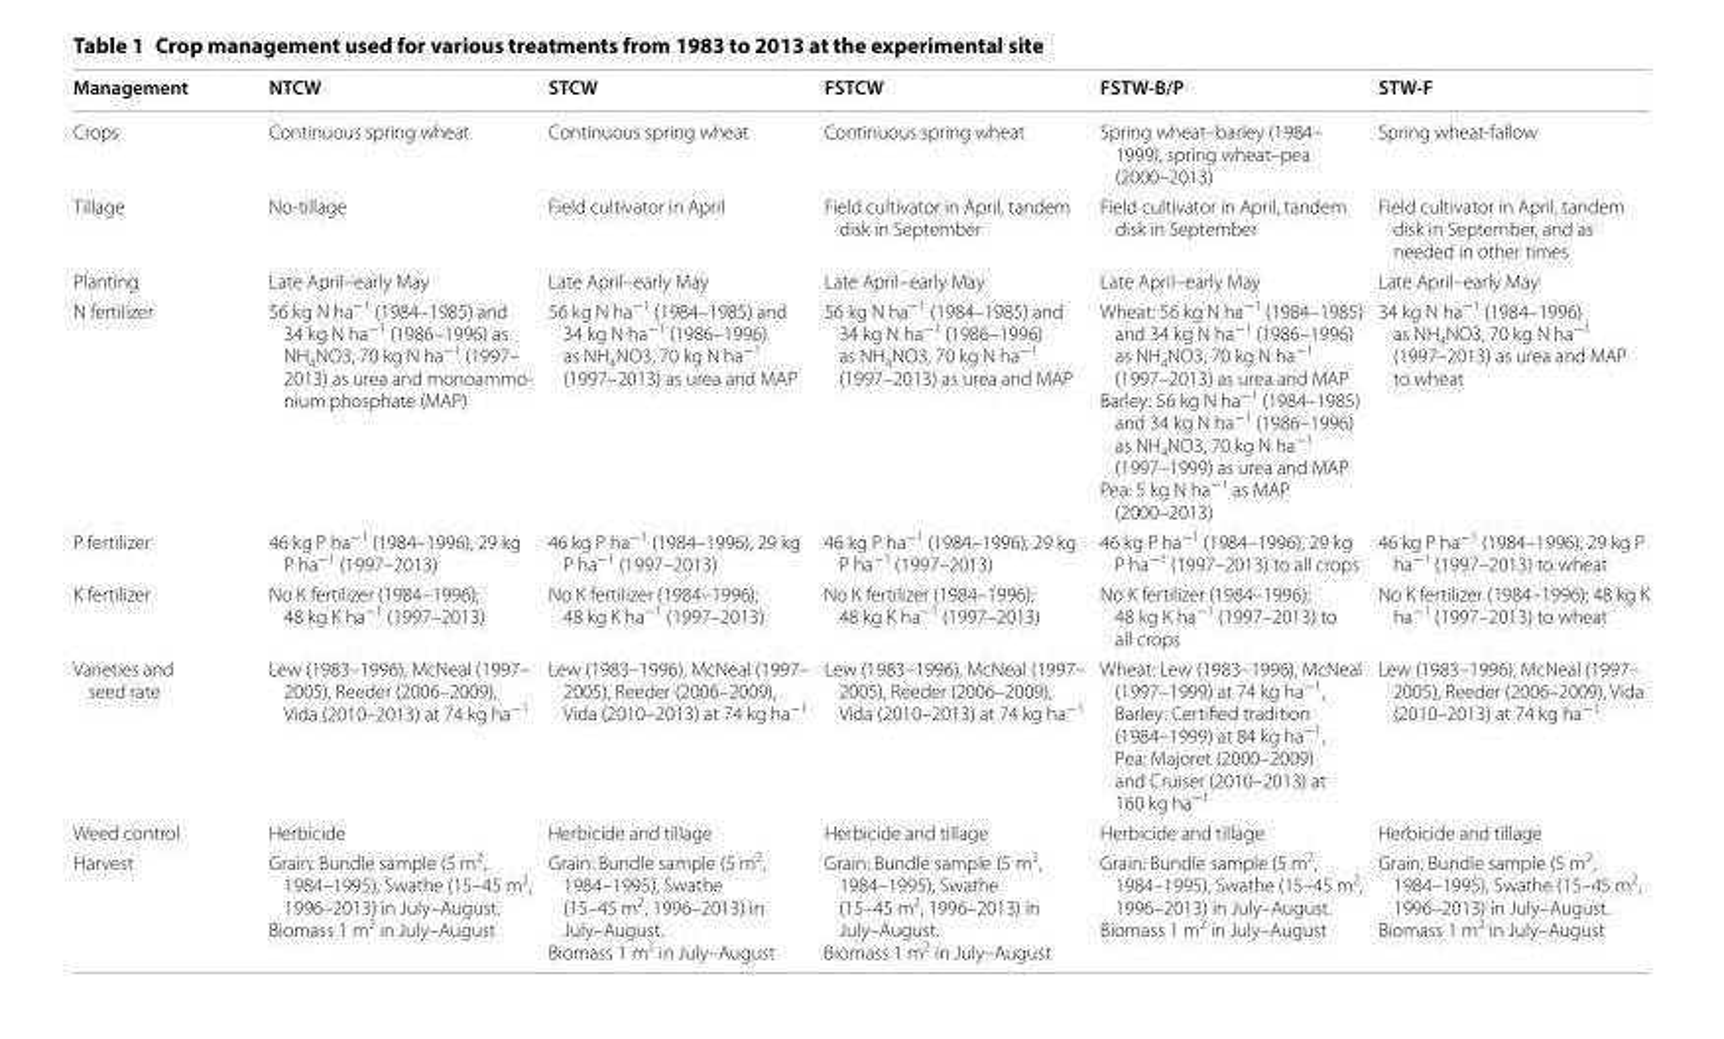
<table><thead><tr><td>Management</td><td>NTCW</td><td>STCW</td><td>FSTCW</td><td>FSTW-B/P</td><td>STW-F</td></tr></thead><tbody><tr><td>Crops</td><td>Continuous spring wheat</td><td>Continuous spring wheat</td><td>Continuous spring wheat</td><td>Spring wheat–barley (1984– 1999), spring wheat–pea (2000–2013)</td><td>Spring wheat‑fallow</td></tr><tr><td>Tillage</td><td>No‑tillage</td><td>Field cultivator in April</td><td>Field cultivator in April, tandem disk in September</td><td>Field cultivator in April, tandem disk in September</td><td>Field cultivator in April, tandem disk in September, and as needed in other times</td></tr><tr><td>Planting</td><td>Late April–early May</td><td>Late April–early May</td><td>Late April–early May</td><td>Late April–early May</td><td>Late April–early May</td></tr><tr><td>N fertilizer</td><td>56 kg N ha−1 (1984–1985) and 34 kg N ha−1 (1986–1996) as NH4NO3, 70 kg N ha−1 (1997– 2013) as urea and monoammo‑ nium phosphate (MAP)</td><td>56 kg N ha<sup>−1</sup> (1984–1985) and 34 kg N ha<sup>−1</sup> (1986–1996) as NH<sub>4</sub>NO3, 70 kg N ha<sup>−1</sup> (1997–2013) as urea and MAP</td><td>56 kg N ha<sup>−1</sup> (1984–1985) and 34 kg N ha<sup>−1</sup> (1986–1996) as NH<sub>4</sub>NO3, 70 kg N ha<sup>−1</sup> (1997–2013) as urea and MAP</td><td>Wheat: 56 kg N ha<sup>−1</sup> (1984–1985) and 34 kg N ha<sup>−1</sup> (1986–1996) as NH<sub>4</sub>NO3, 70 kg N ha<sup>−1</sup> (1997–2013) as urea and MAP Barley: 56 kg N ha<sup>−1</sup> (1984–1985) and 34 kg N ha<sup>−1</sup> (1986–1996) as NH<sub>4</sub>NO3, 70 kg N ha<sup>−1</sup> (1997–1999) as urea and MAP Pea: 5 kg N ha<sup>−1</sup> as MAP (2000–2013)</td><td>34 kg N ha<sup>−1</sup> (1984–1996) as NH<sub>4</sub>NO3, 70 kg N ha<sup>−1</sup> (1997–2013) as urea and MAP to wheat</td></tr><tr><td>P fertilizer</td><td>46 kg P ha<sup>−1</sup> (1984–1996), 29 kg P ha<sup>−1</sup> (1997–2013)</td><td>46 kg P ha<sup>−1</sup> (1984–1996), 29 kg P ha<sup>−1</sup> (1997–2013)</td><td>46 kg P ha<sup>−1</sup> (1984–1996), 29 kg P ha<sup>−1</sup> (1997–2013)</td><td>46 kg P ha<sup>−1</sup> (1984–1996), 29 kg P ha<sup>−1</sup> (1997–2013) to all crops</td><td>46 kg P ha<sup>−1</sup> (1984–1996), 29 kg P ha<sup>−1</sup> (1997–2013) to wheat</td></tr><tr><td>K fertilizer</td><td>No K fertilizer (1984–1996); 48 kg K ha<sup>−1</sup> (1997–2013)</td><td>No K fertilizer (1984–1996); 48 kg K ha<sup>−1</sup> (1997–2013)</td><td>No K fertilizer (1984–1996); 48 kg K ha<sup>−1</sup> (1997–2013)</td><td>No K fertilizer (1984–1996); 48 kg K ha<sup>−1</sup> (1997–2013) to all crops</td><td>No K fertilizer (1984–1996); 48 kg K ha<sup>−1</sup> (1997–2013) to wheat</td></tr><tr><td>Varieties and seed rate</td><td>Lew (1983–1996), McNeal (1997– 2005), Reeder (2006–2009), Vida (2010–2013) at 74 kg ha<sup>−1</sup></td><td>Lew (1983–1996), McNeal (1997– 2005), Reeder (2006–2009), Vida (2010–2013) at 74 kg ha<sup>−1</sup></td><td>Lew (1983–1996), McNeal (1997– 2005), Reeder (2006–2009), Vida (2010–2013) at 74 kg ha<sup>−1</sup></td><td>Wheat: Lew (1983–1996), McNeal (1997–1999) at 74 kg ha<sup>−1</sup>, Barley: Certified tradition (1984–1999) at 84 kg ha<sup>−1</sup>, Pea: Majoret (2000–2009) and Cruiser (2010–2013) at 160 kg ha<sup>−1</sup></td><td>Lew (1983–1996), McNeal (1997– 2005), Reeder (2006–2009), Vida (2010–2013) at 74 kg ha<sup>−1</sup></td></tr><tr><td>Weed control</td><td>Herbicide</td><td>Herbicide and tillage</td><td>Herbicide and tillage</td><td>Herbicide and tillage</td><td>Herbicide and tillage</td></tr><tr><td>Harvest</td><td>Grain: Bundle sample (5 m<sup>2</sup>, 1984–1995), Swathe (15–45 m<sup>2</sup>, 1996–2013) in July–August. Biomass 1 m<sup>2</sup> in July–August</td><td>Grain: Bundle sample (5 m<sup>2</sup>, 1984–1995), Swathe (15–45 m<sup>2</sup>, 1996–2013) in July–August. Biomass 1 m<sup>2</sup> in July–August</td><td>Grain: Bundle sample (5 m<sup>2</sup>, 1984–1995), Swathe (15–45 m<sup>2</sup>, 1996–2013) in July–August. Biomass 1 m<sup>2</sup> in July–August</td><td>Grain: Bundle sample (5 m<sup>2</sup>, 1984–1995), Swathe (15–45 m<sup>2</sup>, 1996–2013) in July–August. Biomass 1 m<sup>2</sup> in July–August</td><td>Grain: Bundle sample (5 m<sup>2</sup>, 1984–1995), Swathe (15–45 m<sup>2</sup>, 1996–2013) in July–August. Biomass 1 m<sup>2</sup> in July–August</td></tr></tbody></table>